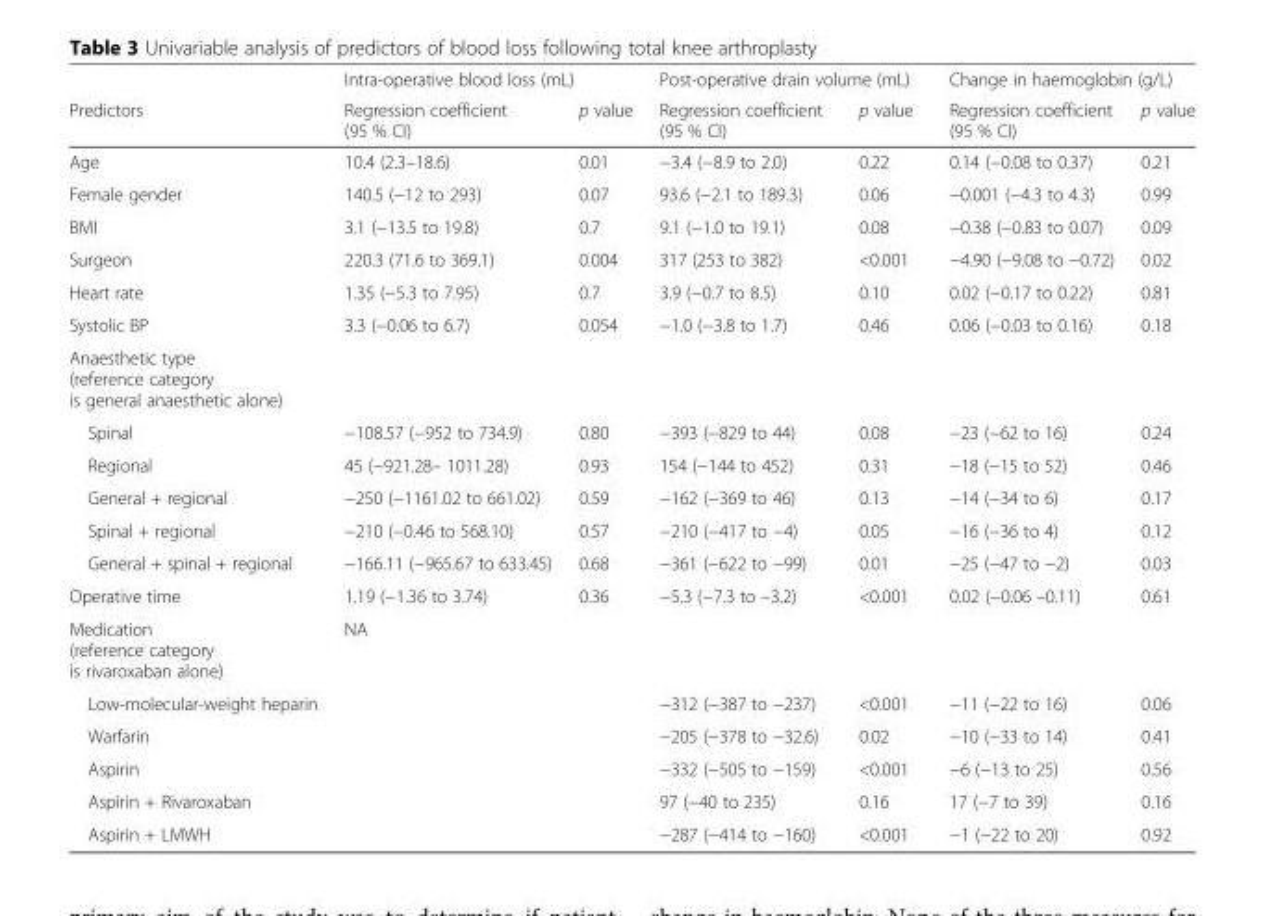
<table><thead><tr><td rowspan="2">Predictors</td><td colspan="2">Intra-operative blood loss (mL)</td><td colspan="2">Post-operative drain volume (mL)</td><td colspan="2">Change in haemoglobin (g/L)</td></tr><tr><td>Regression coefficient (95 % CI)</td><td>p value</td><td>Regression coefficient (95 % CI)</td><td>p value</td><td>Regression coefficient (95 % CI)</td><td>p value</td></tr></thead><tbody><tr><td>Age</td><td>10.4 (2.3–18.6)</td><td>0.01</td><td>−3.4 (−8.9 to 2.0)</td><td>0.22</td><td>0.14 (−0.08 to 0.37)</td><td>0.21</td></tr><tr><td>Female gender</td><td>140.5 (−12 to 293)</td><td>0.07</td><td>93.6 (−2.1 to 189.3)</td><td>0.06</td><td>−0.001 (−4.3 to 4.3)</td><td>0.99</td></tr><tr><td>BMI</td><td>3.1 (−13.5 to 19.8)</td><td>0.7</td><td>9.1 (−1.0 to 19.1)</td><td>0.08</td><td>−0.38 (−0.83 to 0.07)</td><td>0.09</td></tr><tr><td>Surgeon</td><td>220.3 (71.6 to 369.1)</td><td>0.004</td><td>317 (253 to 382)</td><td>&lt;0.001</td><td>−4.90 (−9.08 to −0.72)</td><td>0.02</td></tr><tr><td>Heart rate</td><td>1.35 (−5.3 to 7.95)</td><td>0.7</td><td>3.9 (−0.7 to 8.5)</td><td>0.10</td><td>0.02 (−0.17 to 0.22)</td><td>0.81</td></tr><tr><td>Systolic BP</td><td>3.3 (−0.06 to 6.7)</td><td>0.054</td><td>−1.0 (−3.8 to 1.7)</td><td>0.46</td><td>0.06 (−0.03 to 0.16)</td><td>0.18</td></tr><tr><td colspan="7">Anaesthetic type (reference category is general anaesthetic alone)</td></tr><tr><td>Spinal</td><td>−108.57 (−952 to 734.9)</td><td>0.80</td><td>−393 (−829 to 44)</td><td>0.08</td><td>−23 (−62 to 16)</td><td>0.24</td></tr><tr><td>Regional</td><td>45 (−921.28– 1011.28)</td><td>0.93</td><td>154 (−144 to 452)</td><td>0.31</td><td>−18 (−15 to 52)</td><td>0.46</td></tr><tr><td>General + regional</td><td>−250 (−1161.02 to 661.02)</td><td>0.59</td><td>−162 (−369 to 46)</td><td>0.13</td><td>−14 (−34 to 6)</td><td>0.17</td></tr><tr><td>Spinal + regional</td><td>−210 (−0.46 to 568.10)</td><td>0.57</td><td>−210 (−417 to −4)</td><td>0.05</td><td>−16 (−36 to 4)</td><td>0.12</td></tr><tr><td>General + spinal + regional</td><td>−166.11 (−965.67 to 633.45)</td><td>0.68</td><td>−361 (−622 to −99)</td><td>0.01</td><td>−25 (−47 to −2)</td><td>0.03</td></tr><tr><td>Operative time</td><td>1.19 (−1.36 to 3.74)</td><td>0.36</td><td>−5.3 (−7.3 to –3.2)</td><td>&lt;0.001</td><td>0.02 (−0.06 –0.11)</td><td>0.61</td></tr><tr><td>Medication (reference category is rivaroxaban alone)</td><td>NA</td><td></td><td></td><td></td><td></td><td></td></tr><tr><td>Low-molecular-weight heparin</td><td></td><td></td><td>−312 (−387 to −237)</td><td>&lt;0.001</td><td>−11 (−22 to 16)</td><td>0.06</td></tr><tr><td>Warfarin</td><td></td><td></td><td>−205 (−378 to −32.6)</td><td>0.02</td><td>−10 (−33 to 14)</td><td>0.41</td></tr><tr><td>Aspirin</td><td></td><td></td><td>−332 (−505 to −159)</td><td>&lt;0.001</td><td>−6 (−13 to 25)</td><td>0.56</td></tr><tr><td>Aspirin + Rivaroxaban</td><td></td><td></td><td>97 (−40 to 235)</td><td>0.16</td><td>17 (−7 to 39)</td><td>0.16</td></tr><tr><td>Aspirin + LMWH</td><td></td><td></td><td>−287 (−414 to −160)</td><td>&lt;0.001</td><td>−1 (−22 to 20)</td><td>0.92</td></tr></tbody></table>